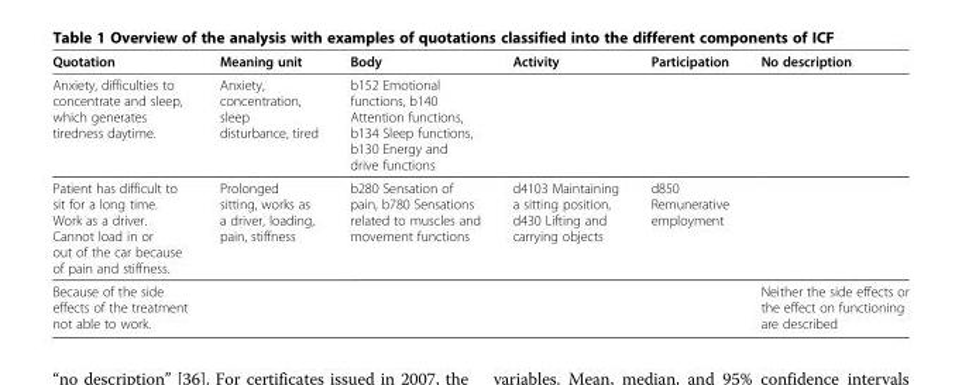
<table><thead><tr><td>Quotation</td><td>Meaning unit</td><td>Body</td><td>Activity</td><td>Participation</td><td>No description</td></tr></thead><tbody><tr><td>Anxiety, difficulties to concentrate and sleep, which generates tiredness daytime.</td><td>Anxiety, concentration, sleep disturbance, tired</td><td>b152 Emotional functions, b140 Attention functions, b134 Sleep functions, b130 Energy and drive functions</td><td></td><td></td><td></td></tr><tr><td>Patient has difficult to sit for a long time. Work as a driver. Cannot load in or out of the car because of pain and stiffness.</td><td>Prolonged sitting, works as a driver, loading, pain, stiffness</td><td>b280 Sensation of pain, b780 Sensations related to muscles and movement functions</td><td>d4103 Maintaining a sitting position, d430 Lifting and carrying objects</td><td>d850 Remunerative employment</td><td></td></tr><tr><td>Because of the side effects of the treatment not able to work.</td><td></td><td></td><td></td><td></td><td>Neither the side effects or the effect on functioning are described</td></tr></tbody></table>